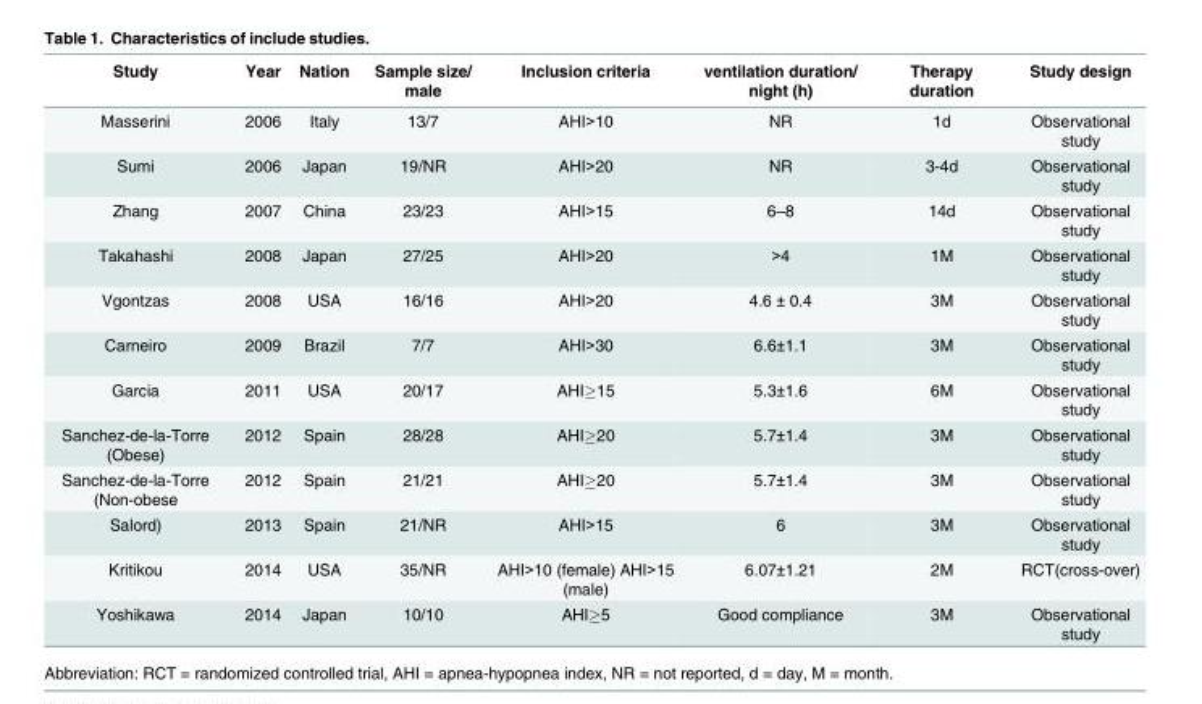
<table><thead><tr><td>Study</td><td>Year</td><td>Nation</td><td>Sample size/ male</td><td>Inclusion criteria</td><td>ventilation duration/ night (h)</td><td>Therapy duration</td><td>Study design</td></tr></thead><tbody><tr><td>Masserini</td><td>2006</td><td>Italy</td><td>13/7</td><td>AHI&gt;10</td><td>NR</td><td>1d</td><td>Observational study</td></tr><tr><td>Sumi</td><td>2006</td><td>Japan</td><td>19/NR</td><td>AHI&gt;20</td><td>NR</td><td>3-4d</td><td>Observational study</td></tr><tr><td>Zhang</td><td>2007</td><td>China</td><td>23/23</td><td>AHI&gt;15</td><td>6–8</td><td>14d</td><td>Observational study</td></tr><tr><td>Takahashi</td><td>2008</td><td>Japan</td><td>27/25</td><td>AHI&gt;20</td><td>&gt;4</td><td>1M</td><td>Observational study</td></tr><tr><td>Vgontzas</td><td>2008</td><td>USA</td><td>16/16</td><td>AHI&gt;20</td><td>4.6 ± 0.4</td><td>3M</td><td>Observational study</td></tr><tr><td>Carneiro</td><td>2009</td><td>Brazil</td><td>7/7</td><td>AHI&gt;30</td><td>6.6±1.1</td><td>3M</td><td>Observational study</td></tr><tr><td>Garcia</td><td>2011</td><td>USA</td><td>20/17</td><td>AHI≥15</td><td>5.3±1.6</td><td>6M</td><td>Observational study</td></tr><tr><td>Sanchez-de-la-Torre (Obese)</td><td>2012</td><td>Spain</td><td>28/28</td><td>AHI≥20</td><td>5.7±1.4</td><td>3M</td><td>Observational study</td></tr><tr><td>Sanchez-de-la-Torre (Non-obese</td><td>2012</td><td>Spain</td><td>21/21</td><td>AHI≥20</td><td>5.7±1.4</td><td>3M</td><td>Observational study</td></tr><tr><td>Salord)</td><td>2013</td><td>Spain</td><td>21/NR</td><td>AHI&gt;15</td><td>6</td><td>3M</td><td>Observational study</td></tr><tr><td>Kritikou</td><td>2014</td><td>USA</td><td>35/NR</td><td>AHI&gt;10 (female) AHI&gt;15 (male)</td><td>6.07±1.21</td><td>2M</td><td>RCT(cross-over)</td></tr><tr><td>Yoshikawa</td><td>2014</td><td>Japan</td><td>10/10</td><td>AHI≥5</td><td>Good compliance</td><td>3M</td><td>Observational study</td></tr></tbody></table>